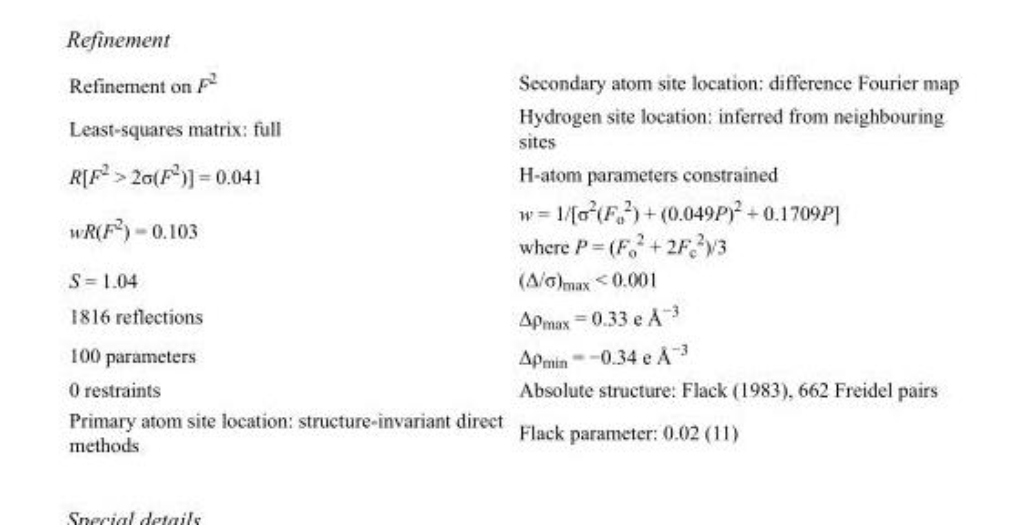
<table><tbody><tr><td>Refinement on F<sup>2</sup></td><td>Secondary atom site location: difference Fourier map</td></tr><tr><td>Least-squares matrix: full</td><td>Hydrogen site location: inferred from neighbouring sites</td></tr><tr><td>R[F<sup>2</sup> &gt; 2σ(F<sup>2</sup>)] = 0.041</td><td>H-atom parameters constrained</td></tr><tr><td>wR(F<sup>2</sup>) = 0.103</td><td>w = 1/[σ<sup>2</sup>(F<sub>o</sub> <sup>2</sup>) + (0.049P)<sup>2</sup> + 0.1709P] where P = (F<sub>o</sub> <sup>2</sup> + 2F<sub>c</sub> <sup>2</sup>)/3</td></tr><tr><td>S = 1.04</td><td>(Δ/σ)<sub>max</sub> &lt; 0.001</td></tr><tr><td>1816 reflections</td><td>Δρ<sub>max</sub> = 0.33 e Å<sup>−3</sup></td></tr><tr><td>100 parameters</td><td>Δρ<sub>min</sub> = −0.34 e Å<sup>−3</sup></td></tr><tr><td>0 restraints</td><td>Absolute structure: Flack (1983), 662 Freidel pairs</td></tr><tr><td>Primary atom site location: structure-invariant direct methods</td><td>Flack parameter: 0.02 (11)</td></tr></tbody></table>